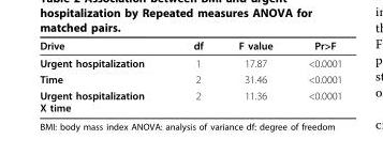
<table><thead><tr><td>Drive</td><td>df</td><td>F value</td><td>Pr&gt;F</td></tr></thead><tbody><tr><td>Urgent hospitalization</td><td>1</td><td>17.87</td><td>&lt;0.0001</td></tr><tr><td>Time</td><td>2</td><td>31.46</td><td>&lt;0.0001</td></tr><tr><td>Urgent hospitalization X time</td><td>2</td><td>11.36</td><td>&lt;0.0001</td></tr></tbody></table>